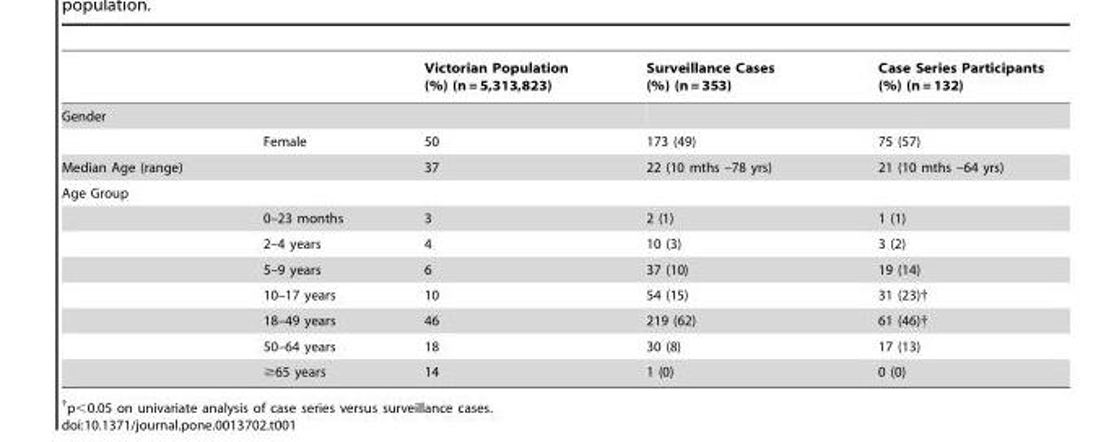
<table><thead><tr><td></td><td></td><td>Victorian Population (%) (n = 5,313,823)</td><td>Surveillance Cases (%) (n = 353)</td><td>Case Series Participants (%) (n = 132)</td></tr></thead><tbody><tr><td colspan="5">Gender</td></tr><tr><td></td><td>Female</td><td>50</td><td>173 (49)</td><td>75 (57)</td></tr><tr><td>Median Age (range)</td><td></td><td>37</td><td>22 (10 mths –78 yrs)</td><td>21 (10 mths –64 yrs)</td></tr><tr><td colspan="5">Age Group</td></tr><tr><td></td><td>0–23 months</td><td>3</td><td>2 (1)</td><td>1 (1)</td></tr><tr><td></td><td>2–4 years</td><td>4</td><td>10 (3)</td><td>3 (2)</td></tr><tr><td></td><td>5–9 years</td><td>6</td><td>37 (10)</td><td>19 (14)</td></tr><tr><td></td><td>10–17 years</td><td>10</td><td>54 (15)</td><td>31 (23)†</td></tr><tr><td></td><td>18–49 years</td><td>46</td><td>219 (62)</td><td>61 (46)†</td></tr><tr><td></td><td>50–64 years</td><td>18</td><td>30 (8)</td><td>17 (13)</td></tr><tr><td></td><td>≥65 years</td><td>14</td><td>1 (0)</td><td>0 (0)</td></tr></tbody></table>